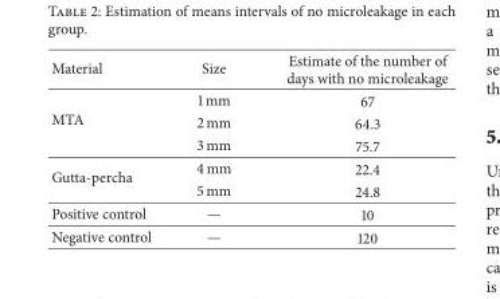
<table><thead><tr><td>Material</td><td>Size</td><td>Estimate of the number of days with no microleakage</td></tr></thead><tbody><tr><td rowspan="3">MTA</td><td>1 mm</td><td>67</td></tr><tr><td>2 mm</td><td>64.3</td></tr><tr><td>3 mm</td><td>75.7</td></tr><tr><td rowspan="2">Gutta-percha</td><td>4 mm</td><td>22.4</td></tr><tr><td>5 mm</td><td>24.8</td></tr><tr><td>Positive control</td><td>—</td><td>10</td></tr><tr><td>Negative control</td><td>—</td><td>120</td></tr></tbody></table>